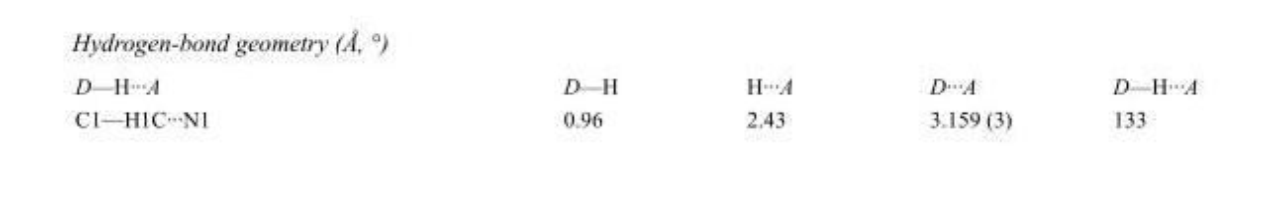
<table><tbody><tr><td>D—H···A</td><td>D—H</td><td>H···A</td><td>D···A</td><td>D—H···A</td></tr><tr><td>C1—H1C···N1</td><td>0.96</td><td>2.43</td><td>3.159 (3)</td><td>133</td></tr></tbody></table>